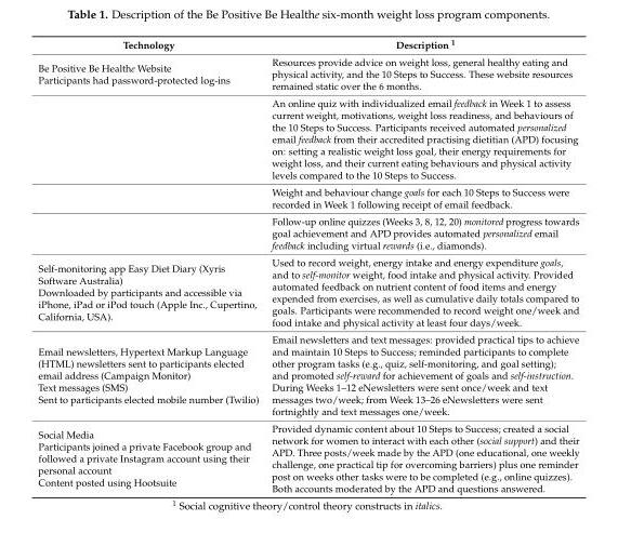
<table><thead><tr><td>Technology</td><td>Description <sup>1</sup></td></tr></thead><tbody><tr><td rowspan="4">Be Positive Be Healthe Website Participants had password-protected log-ins</td><td>Resources provide advice on weight loss, general healthy eating and physical activity, and the 10 Steps to Success. These website resources remained static over the 6 months.</td></tr><tr><td>An online quiz with individualized email feedback in Week 1 to assess current weight, motivations, weight loss readiness, and behaviours of the 10 Steps to Success. Participants received automated personalized email feedback from their accredited practising dietitian (APD) focusing on: setting a realistic weight loss goal, their energy requirements for weight loss, and their current eating behaviours and physical activity levels compared to the 10 Steps to Success.</td></tr><tr><td>Weight and behaviour change goals for each 10 Steps to Success were recorded in Week 1 following receipt of email feedback.</td></tr><tr><td>Follow-up online quizzes (Weeks 3, 8, 12, 20) monitored progress towards goal achievement and APD provides automated personalized email feedback including virtual rewards (i.e., diamonds).</td></tr><tr><td>Self-monitoring app Easy Diet Diary (Xyris Software Australia) Downloaded by participants and accessible via iPhone, iPad or iPod touch (Apple Inc., Cupertino, California, USA).</td><td>Used to record weight, energy intake and energy expenditure goals, and to self-monitor weight, food intake and physical activity. Provided automated feedback on nutrient content of food items and energy expended from exercises, as well as cumulative daily totals compared to goals. Participants were recommended to record weight one/week and food intake and physical activity at least four days/week.</td></tr><tr><td>Email newsletters, Hypertext Markup Language (HTML) newsletters sent to participants elected email address (Campaign Monitor) Text messages (SMS) Sent to participants elected mobile number (Twilio)</td><td>Email newsletters and text messages: provided practical tips to achieve and maintain 10 Steps to Success; reminded participants to complete other program tasks (e.g., quiz, self-monitoring, and goal setting); and promoted self-reward for achievement of goals and self-instruction. During Weeks 1–12 eNewsletters were sent once/week and text messages two/week; from Week 13–26 eNewsletters were sent fortnightly and text messages one/week.</td></tr><tr><td>Social Media Participants joined a private Facebook group and followed a private Instagram account using their personal account Content posted using Hootsuite</td><td>Provided dynamic content about 10 Steps to Success; created a social network for women to interact with each other (social support) and their APD. Three posts/week made by the APD (one educational, one weekly challenge, one practical tip for overcoming barriers) plus one reminder post on weeks other tasks were to be completed (e.g., online quizzes). Both accounts moderated by the APD and questions answered.</td></tr></tbody></table>